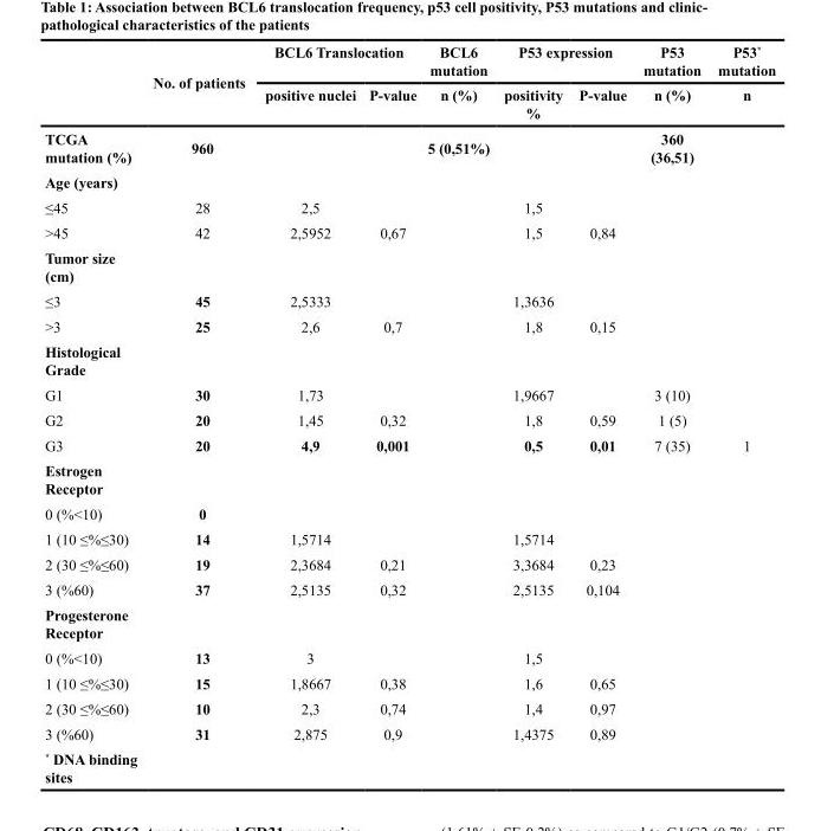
<table><thead><tr><td rowspan="2"></td><td rowspan="2">No. of patients</td><td colspan="2">BCL6 Translocation</td><td rowspan="2">BCL6 mutation n (%)</td><td colspan="2">P53 expression</td><td rowspan="2">P53 mutation n (%)</td><td rowspan="2">P53* mutation n</td></tr><tr><td>positive nuclei</td><td>P-value</td><td>positivity %</td><td>P-value</td></tr></thead><tbody><tr><td>TCGA mutation (%)</td><td>960</td><td></td><td></td><td>5 (0,51%)</td><td></td><td></td><td>360 (36,51)</td><td></td></tr><tr><td colspan="9">Age (years)</td></tr><tr><td>≤45</td><td>28</td><td>2,5</td><td></td><td></td><td>1,5</td><td></td><td></td><td></td></tr><tr><td>&gt;45</td><td>42</td><td>2,5952</td><td>0,67</td><td></td><td>1,5</td><td>0,84</td><td></td><td></td></tr><tr><td colspan="9">Tumor size (cm)</td></tr><tr><td>≤3</td><td>45</td><td>2,5333</td><td></td><td></td><td>1,3636</td><td></td><td></td><td></td></tr><tr><td>&gt;3</td><td>25</td><td>2,6</td><td>0,7</td><td></td><td>1,8</td><td>0,15</td><td></td><td></td></tr><tr><td colspan="9">Histological Grade</td></tr><tr><td>G1</td><td>30</td><td>1,73</td><td></td><td></td><td>1,9667</td><td></td><td>3 (10)</td><td></td></tr><tr><td>G2</td><td>20</td><td>1,45</td><td>0,32</td><td></td><td>1,8</td><td>0,59</td><td>1 (5)</td><td></td></tr><tr><td>G3</td><td>20</td><td>4,9</td><td>0,001</td><td></td><td>0,5</td><td>0,01</td><td>7 (35)</td><td>1</td></tr><tr><td colspan="9">Estrogen Receptor</td></tr><tr><td>0 (%&lt;10)</td><td>0</td><td></td><td></td><td></td><td></td><td></td><td></td><td></td></tr><tr><td>1 (10 ≤%≤30)</td><td>14</td><td>1,5714</td><td></td><td></td><td>1,5714</td><td></td><td></td><td></td></tr><tr><td>2 (30 ≤%≤60)</td><td>19</td><td>2,3684</td><td>0,21</td><td></td><td>3,3684</td><td>0,23</td><td></td><td></td></tr><tr><td>3 (%60)</td><td>37</td><td>2,5135</td><td>0,32</td><td></td><td>2,5135</td><td>0,104</td><td></td><td></td></tr><tr><td colspan="9">Progesterone Receptor</td></tr><tr><td>0 (%&lt;10)</td><td>13</td><td>3</td><td></td><td></td><td>1,5</td><td></td><td></td><td></td></tr><tr><td>1 (10 ≤%≤30)</td><td>15</td><td>1,8667</td><td>0,38</td><td></td><td>1,6</td><td>0,65</td><td></td><td></td></tr><tr><td>2 (30 ≤%≤60)</td><td>10</td><td>2,3</td><td>0,74</td><td></td><td>1,4</td><td>0,97</td><td></td><td></td></tr><tr><td>3 (%60)</td><td>31</td><td>2,875</td><td>0,9</td><td></td><td>1,4375</td><td>0,89</td><td></td><td></td></tr><tr><td>* DNA binding sites</td><td></td><td></td><td></td><td></td><td></td><td></td><td></td><td></td></tr></tbody></table>